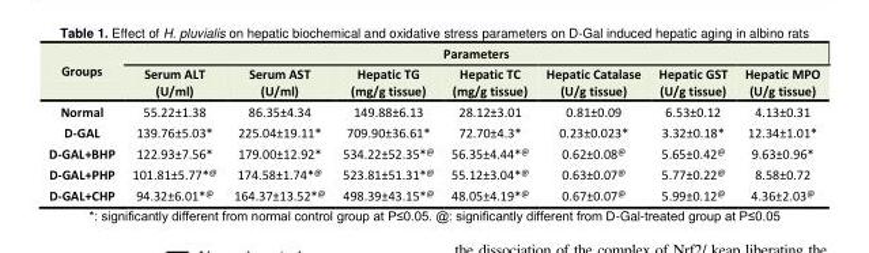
<table><tbody><tr><td rowspan="2">Groups</td><td colspan="7">Parameters</td></tr><tr><td>Serum ALT (U/ml)</td><td>Serum AST (U/ml)</td><td>Hepatic TG (mg/g tissue)</td><td>Hepatic TC (mg/g tissue)</td><td>Hepatic Catalase (U/g tissue)</td><td>Hepatic GST (U/g tissue)</td><td>Hepatic MPO (U/g tissue)</td></tr><tr><td>Normal</td><td>55.22±1.38</td><td>86.35±4.34</td><td>149.88±6.13</td><td>28.12±3.01</td><td>0.81±0.09</td><td>6.53±0.12</td><td>4.13±0.31</td></tr><tr><td>D-GAL</td><td>139.76±5.03*</td><td>225.04±19.11*</td><td>709.90±36.61*</td><td>72.70±4.3*</td><td>0.23±0.023*</td><td>3.32±0.18*</td><td>12.34±1.01*</td></tr><tr><td>D-GAL+BHP</td><td>122.93±7.56*</td><td>179.00±12.92*</td><td>534.22±52.35*<sup>@</sup></td><td>56.35±4.44*<sup>@</sup></td><td>0.62±0.08<sup>@</sup></td><td>5.65±0.42<sup>@</sup></td><td>9.63±0.96*</td></tr><tr><td>D-GAL+PHP</td><td>101.81±5.77*<sup>@</sup></td><td>174.58±1.74*<sup>@</sup></td><td>523.81±51.31*<sup>@</sup></td><td>55.12±3.04*<sup>@</sup></td><td>0.63±0.07<sup>@</sup></td><td>5.77±0.22<sup>@</sup></td><td>8.58±0.72</td></tr><tr><td>D-GAL+CHP</td><td>94.32±6.01*<sup>@</sup></td><td>164.37±13.52*<sup>@</sup></td><td>498.39±43.15*<sup>@</sup></td><td>48.05±4.19*<sup>@</sup></td><td>0.67±0.07<sup>@</sup></td><td>5.99±0.12<sup>@</sup></td><td>4.36±2.03<sup>@</sup></td></tr></tbody></table>